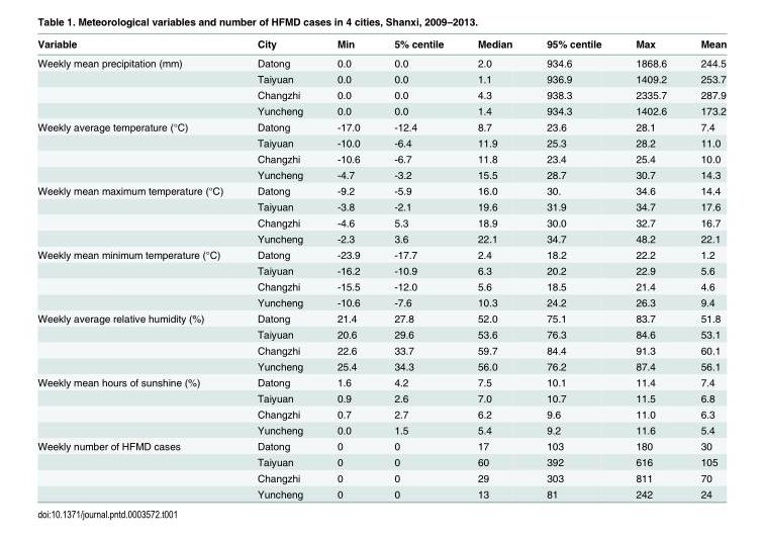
<table><thead><tr><td>Variable</td><td>City</td><td>Min</td><td>5% centile</td><td>Median</td><td>95% centile</td><td>Max</td><td>Mean</td></tr></thead><tbody><tr><td rowspan="4">Weekly mean precipitation (mm)</td><td>Datong</td><td>0.0</td><td>0.0</td><td>2.0</td><td>934.6</td><td>1868.6</td><td>244.5</td></tr><tr><td>Taiyuan</td><td>0.0</td><td>0.0</td><td>1.1</td><td>936.9</td><td>1409.2</td><td>253.7</td></tr><tr><td>Changzhi</td><td>0.0</td><td>0.0</td><td>4.3</td><td>938.3</td><td>2335.7</td><td>287.9</td></tr><tr><td>Yuncheng</td><td>0.0</td><td>0.0</td><td>1.4</td><td>934.3</td><td>1402.6</td><td>173.2</td></tr><tr><td rowspan="4">Weekly average temperature (°C)</td><td>Datong</td><td>-17.0</td><td>-12.4</td><td>8.7</td><td>23.6</td><td>28.1</td><td>7.4</td></tr><tr><td>Taiyuan</td><td>-10.0</td><td>-6.4</td><td>11.9</td><td>25.3</td><td>28.2</td><td>11.0</td></tr><tr><td>Changzhi</td><td>-10.6</td><td>-6.7</td><td>11.8</td><td>23.4</td><td>25.4</td><td>10.0</td></tr><tr><td>Yuncheng</td><td>-4.7</td><td>-3.2</td><td>15.5</td><td>28.7</td><td>30.7</td><td>14.3</td></tr><tr><td rowspan="4">Weekly mean maximum temperature (°C)</td><td>Datong</td><td>-9.2</td><td>-5.9</td><td>16.0</td><td>30.</td><td>34.6</td><td>14.4</td></tr><tr><td>Taiyuan</td><td>-3.8</td><td>-2.1</td><td>19.6</td><td>31.9</td><td>34.7</td><td>17.6</td></tr><tr><td>Changzhi</td><td>-4.6</td><td>5.3</td><td>18.9</td><td>30.0</td><td>32.7</td><td>16.7</td></tr><tr><td>Yuncheng</td><td>-2.3</td><td>3.6</td><td>22.1</td><td>34.7</td><td>48.2</td><td>22.1</td></tr><tr><td rowspan="4">Weekly mean minimum temperature (°C)</td><td>Datong</td><td>-23.9</td><td>-17.7</td><td>2.4</td><td>18.2</td><td>22.2</td><td>1.2</td></tr><tr><td>Taiyuan</td><td>-16.2</td><td>-10.9</td><td>6.3</td><td>20.2</td><td>22.9</td><td>5.6</td></tr><tr><td>Changzhi</td><td>-15.5</td><td>-12.0</td><td>5.6</td><td>18.5</td><td>21.4</td><td>4.6</td></tr><tr><td>Yuncheng</td><td>-10.6</td><td>-7.6</td><td>10.3</td><td>24.2</td><td>26.3</td><td>9.4</td></tr><tr><td rowspan="4">Weekly average relative humidity (%)</td><td>Datong</td><td>21.4</td><td>27.8</td><td>52.0</td><td>75.1</td><td>83.7</td><td>51.8</td></tr><tr><td>Taiyuan</td><td>20.6</td><td>29.6</td><td>53.6</td><td>76.3</td><td>84.6</td><td>53.1</td></tr><tr><td>Changzhi</td><td>22.6</td><td>33.7</td><td>59.7</td><td>84.4</td><td>91.3</td><td>60.1</td></tr><tr><td>Yuncheng</td><td>25.4</td><td>34.3</td><td>56.0</td><td>76.2</td><td>87.4</td><td>56.1</td></tr><tr><td rowspan="4">Weekly mean hours of sunshine (%)</td><td>Datong</td><td>1.6</td><td>4.2</td><td>7.5</td><td>10.1</td><td>11.4</td><td>7.4</td></tr><tr><td>Taiyuan</td><td>0.9</td><td>2.6</td><td>7.0</td><td>10.7</td><td>11.5</td><td>6.8</td></tr><tr><td>Changzhi</td><td>0.7</td><td>2.7</td><td>6.2</td><td>9.6</td><td>11.0</td><td>6.3</td></tr><tr><td>Yuncheng</td><td>0.0</td><td>1.5</td><td>5.4</td><td>9.2</td><td>11.6</td><td>5.4</td></tr><tr><td rowspan="4">Weekly number of HFMD cases</td><td>Datong</td><td>0</td><td>0</td><td>17</td><td>103</td><td>180</td><td>30</td></tr><tr><td>Taiyuan</td><td>0</td><td>0</td><td>60</td><td>392</td><td>616</td><td>105</td></tr><tr><td>Changzhi</td><td>0</td><td>0</td><td>29</td><td>303</td><td>811</td><td>70</td></tr><tr><td>Yuncheng</td><td>0</td><td>0</td><td>13</td><td>81</td><td>242</td><td>24</td></tr></tbody></table>